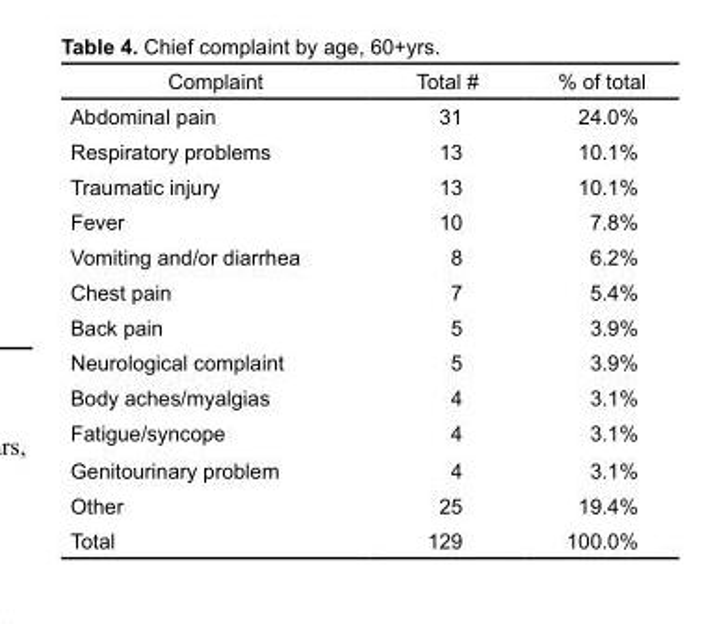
<table><thead><tr><td>Complaint</td><td>Total #</td><td>% of total</td></tr></thead><tbody><tr><td>Abdominal pain</td><td>31</td><td>24.0%</td></tr><tr><td>Respiratory problems</td><td>13</td><td>10.1%</td></tr><tr><td>Traumatic injury</td><td>13</td><td>10.1%</td></tr><tr><td>Fever</td><td>10</td><td>7.8%</td></tr><tr><td>Vomiting and/or diarrhea</td><td>8</td><td>6.2%</td></tr><tr><td>Chest pain</td><td>7</td><td>5.4%</td></tr><tr><td>Back pain</td><td>5</td><td>3.9%</td></tr><tr><td>Neurological complaint</td><td>5</td><td>3.9%</td></tr><tr><td>Body aches/myalgias</td><td>4</td><td>3.1%</td></tr><tr><td>Fatigue/syncope</td><td>4</td><td>3.1%</td></tr><tr><td>Genitourinary problem</td><td>4</td><td>3.1%</td></tr><tr><td>Other</td><td>25</td><td>19.4%</td></tr><tr><td>Total</td><td>129</td><td>100.0%</td></tr></tbody></table>